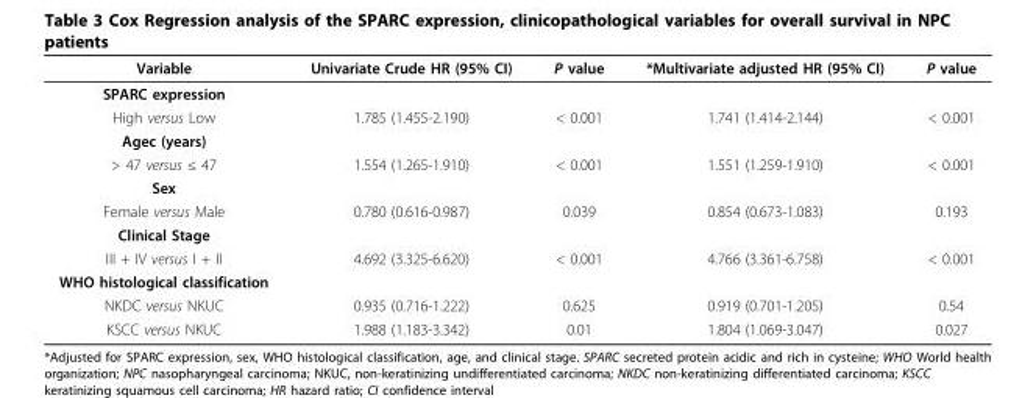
<table><thead><tr><td>Variable</td><td>Univariate Crude HR (95% CI)</td><td>P value</td><td>*Multivariate adjusted HR (95% CI)</td><td>P value</td></tr></thead><tbody><tr><td colspan="5">SPARC expression</td></tr><tr><td>High versus Low</td><td>1.785 (1.455-2.190)</td><td>&lt; 0.001</td><td>1.741 (1.414-2.144)</td><td>&lt; 0.001</td></tr><tr><td colspan="5">Agec (years)</td></tr><tr><td>&gt; 47 versus ≤ 47</td><td>1.554 (1.265-1.910)</td><td>&lt; 0.001</td><td>1.551 (1.259-1.910)</td><td>&lt; 0.001</td></tr><tr><td colspan="5">Sex</td></tr><tr><td>Female versus Male</td><td>0.780 (0.616-0.987)</td><td>0.039</td><td>0.854 (0.673-1.083)</td><td>0.193</td></tr><tr><td colspan="5">Clinical Stage</td></tr><tr><td>III + IV versus I + II</td><td>4.692 (3.325-6.620)</td><td>&lt; 0.001</td><td>4.766 (3.361-6.758)</td><td>&lt; 0.001</td></tr><tr><td colspan="5">WHO histological classification</td></tr><tr><td>NKDC versus NKUC</td><td>0.935 (0.716-1.222)</td><td>0.625</td><td>0.919 (0.701-1.205)</td><td>0.54</td></tr><tr><td>KSCC versus NKUC</td><td>1.988 (1.183-3.342)</td><td>0.01</td><td>1.804 (1.069-3.047)</td><td>0.027</td></tr></tbody></table>